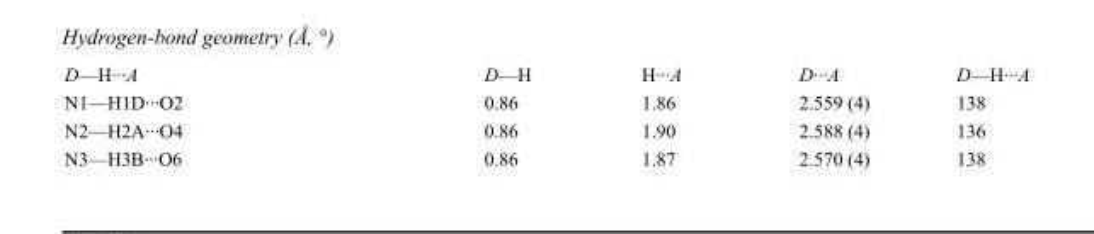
<table><tbody><tr><td>D—H···A</td><td>D—H</td><td>H···A</td><td>D···A</td><td>D—H···A</td></tr><tr><td>N1—H1D···O2</td><td>0.86</td><td>1.86</td><td>2.559 (4)</td><td>138</td></tr><tr><td>N2—H2A···O4</td><td>0.86</td><td>1.90</td><td>2.588 (4)</td><td>136</td></tr><tr><td>N3—H3B···O6</td><td>0.86</td><td>1.87</td><td>2.570 (4)</td><td>138</td></tr></tbody></table>